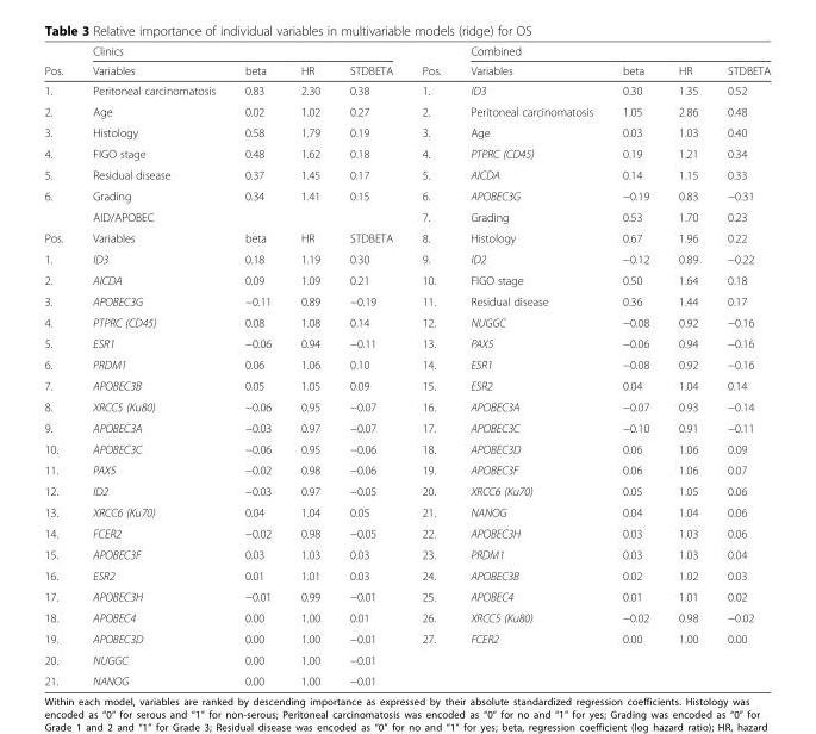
<table><thead><tr><td rowspan="2">Pos.</td><td colspan="4">Clinics</td><td rowspan="2">Pos.</td><td colspan="4">Combined</td></tr><tr><td>Variables</td><td>beta</td><td>HR</td><td>STDBETA</td><td>Variables</td><td>beta</td><td>HR</td><td>STDBETA</td></tr></thead><tbody><tr><td>1.</td><td>Peritoneal carcinomatosis</td><td>0.83</td><td>2.30</td><td>0.38</td><td>1.</td><td>ID3</td><td>0.30</td><td>1.35</td><td>0.52</td></tr><tr><td>2.</td><td>Age</td><td>0.02</td><td>1.02</td><td>0.27</td><td>2.</td><td>Peritoneal carcinomatosis</td><td>1.05</td><td>2.86</td><td>0.48</td></tr><tr><td>3.</td><td>Histology</td><td>0.58</td><td>1.79</td><td>0.19</td><td>3.</td><td>Age</td><td>0.03</td><td>1.03</td><td>0.40</td></tr><tr><td>4.</td><td>FIGO stage</td><td>0.48</td><td>1.62</td><td>0.18</td><td>4.</td><td>PTPRC (CD45)</td><td>0.19</td><td>1.21</td><td>0.34</td></tr><tr><td>5.</td><td>Residual disease</td><td>0.37</td><td>1.45</td><td>0.17</td><td>5.</td><td>AICDA</td><td>0.14</td><td>1.15</td><td>0.33</td></tr><tr><td rowspan="2">6.</td><td>Grading</td><td>0.34</td><td>1.41</td><td>0.15</td><td>6.</td><td>APOBEC3G</td><td>−0.19</td><td>0.83</td><td>−0.31</td></tr><tr><td colspan="4">AID/APOBEC</td><td>7.</td><td>Grading</td><td>0.53</td><td>1.70</td><td>0.23</td></tr><tr><td>Pos.</td><td>Variables</td><td>beta</td><td>HR</td><td>STDBETA</td><td>8.</td><td>Histology</td><td>0.67</td><td>1.96</td><td>0.22</td></tr><tr><td>1.</td><td>ID3</td><td>0.18</td><td>1.19</td><td>0.30</td><td>9.</td><td>ID2</td><td>−0.12</td><td>0.89</td><td>−0.22</td></tr><tr><td>2.</td><td>AICDA</td><td>0.09</td><td>1.09</td><td>0.21</td><td>10.</td><td>FIGO stage</td><td>0.50</td><td>1.64</td><td>0.18</td></tr><tr><td>3.</td><td>APOBEC3G</td><td>−0.11</td><td>0.89</td><td>−0.19</td><td>11.</td><td>Residual disease</td><td>0.36</td><td>1.44</td><td>0.17</td></tr><tr><td>4.</td><td>PTPRC (CD45)</td><td>0.08</td><td>1.08</td><td>0.14</td><td>12.</td><td>NUGGC</td><td>−0.08</td><td>0.92</td><td>−0.16</td></tr><tr><td>5.</td><td>ESR1</td><td>−0.06</td><td>0.94</td><td>−0.11</td><td>13.</td><td>PAX5</td><td>−0.06</td><td>0.94</td><td>−0.16</td></tr><tr><td>6.</td><td>PRDM1</td><td>0.06</td><td>1.06</td><td>0.10</td><td>14.</td><td>ESR1</td><td>−0.08</td><td>0.92</td><td>−0.16</td></tr><tr><td>7.</td><td>APOBEC3B</td><td>0.05</td><td>1.05</td><td>0.09</td><td>15.</td><td>ESR2</td><td>0.04</td><td>1.04</td><td>0.14</td></tr><tr><td>8.</td><td>XRCC5 (Ku80)</td><td>−0.06</td><td>0.95</td><td>−0.07</td><td>16.</td><td>APOBEC3A</td><td>−0.07</td><td>0.93</td><td>−0.14</td></tr><tr><td>9.</td><td>APOBEC3A</td><td>−0.03</td><td>0.97</td><td>−0.07</td><td>17.</td><td>APOBEC3C</td><td>−0.10</td><td>0.91</td><td>−0.11</td></tr><tr><td>10.</td><td>APOBEC3C</td><td>−0.06</td><td>0.95</td><td>−0.06</td><td>18.</td><td>APOBEC3D</td><td>0.06</td><td>1.06</td><td>0.09</td></tr><tr><td>11.</td><td>PAX5</td><td>−0.02</td><td>0.98</td><td>−0.06</td><td>19.</td><td>APOBEC3F</td><td>0.06</td><td>1.06</td><td>0.07</td></tr><tr><td>12.</td><td>ID2</td><td>−0.03</td><td>0.97</td><td>−0.05</td><td>20.</td><td>XRCC6 (Ku70)</td><td>0.05</td><td>1.05</td><td>0.06</td></tr><tr><td>13.</td><td>XRCC6 (Ku70)</td><td>0.04</td><td>1.04</td><td>0.05</td><td>21.</td><td>NANOG</td><td>0.04</td><td>1.04</td><td>0.06</td></tr><tr><td>14.</td><td>FCER2</td><td>−0.02</td><td>0.98</td><td>−0.05</td><td>22.</td><td>APOBEC3H</td><td>0.03</td><td>1.03</td><td>0.06</td></tr><tr><td>15.</td><td>APOBEC3F</td><td>0.03</td><td>1.03</td><td>0.03</td><td>23.</td><td>PRDM1</td><td>0.03</td><td>1.03</td><td>0.04</td></tr><tr><td>16.</td><td>ESR2</td><td>0.01</td><td>1.01</td><td>0.03</td><td>24.</td><td>APOBEC3B</td><td>0.02</td><td>1.02</td><td>0.03</td></tr><tr><td>17.</td><td>APOBEC3H</td><td>−0.01</td><td>0.99</td><td>−0.01</td><td>25.</td><td>APOBEC4</td><td>0.01</td><td>1.01</td><td>0.02</td></tr><tr><td>18.</td><td>APOBEC4</td><td>0.00</td><td>1.00</td><td>0.01</td><td>26.</td><td>XRCC5 (Ku80)</td><td>−0.02</td><td>0.98</td><td>−0.02</td></tr><tr><td>19.</td><td>APOBEC3D</td><td>0.00</td><td>1.00</td><td>−0.01</td><td>27.</td><td>FCER2</td><td>0.00</td><td>1.00</td><td>0.00</td></tr><tr><td>20.</td><td>NUGGC</td><td>0.00</td><td>1.00</td><td>−0.01</td><td></td><td></td><td></td><td></td><td></td></tr><tr><td>21.</td><td>NANOG</td><td>0.00</td><td>1.00</td><td>−0.01</td><td></td><td></td><td></td><td></td><td></td></tr></tbody></table>